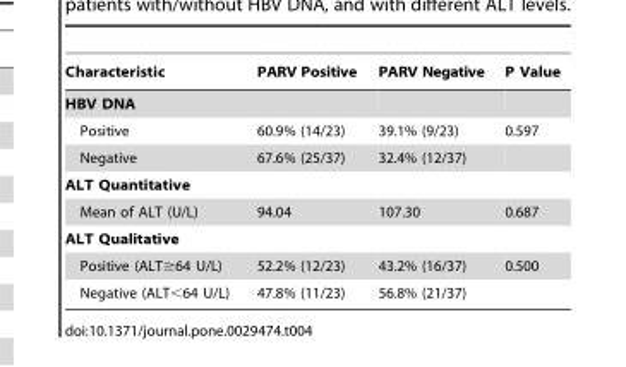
<table><thead><tr><td>Characteristic</td><td>PARV Positive</td><td>PARV Negative</td><td>P Value</td></tr></thead><tbody><tr><td colspan="4">HBV DNA</td></tr><tr><td>Positive</td><td>60.9% (14/23)</td><td>39.1% (9/23)</td><td>0.597</td></tr><tr><td>Negative</td><td>67.6% (25/37)</td><td>32.4% (12/37)</td><td></td></tr><tr><td colspan="4">ALT Quantitative</td></tr><tr><td>Mean of ALT (U/L)</td><td>94.04</td><td>107.30</td><td>0.687</td></tr><tr><td colspan="4">ALT Qualitative</td></tr><tr><td>Positive (ALT≥64 U/L)</td><td>52.2% (12/23)</td><td>43.2% (16/37)</td><td>0.500</td></tr><tr><td>Negative (ALT&lt;64 U/L)</td><td>47.8% (11/23)</td><td>56.8% (21/37)</td><td></td></tr></tbody></table>